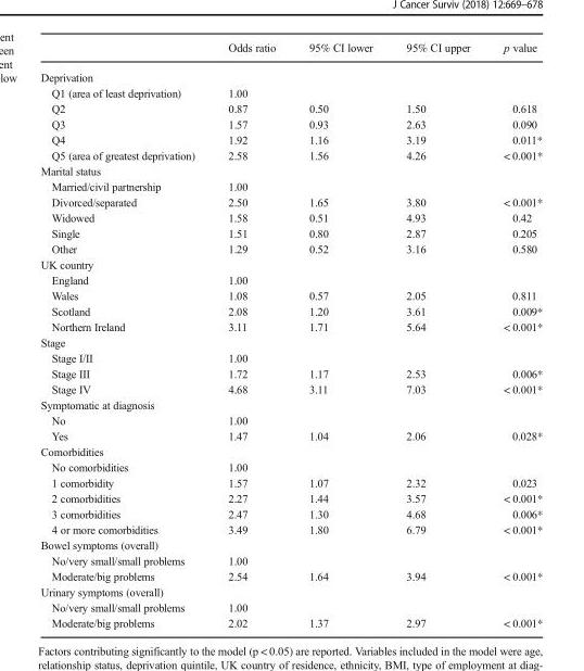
<table><thead><tr><td></td><td>Odds ratio</td><td>95% CI lower</td><td>95% CI upper</td><td>p value</td></tr></thead><tbody><tr><td colspan="5">Deprivation</td></tr><tr><td>Q1 (area of least deprivation)</td><td>1.00</td><td></td><td></td><td></td></tr><tr><td>Q2</td><td>0.87</td><td>0.50</td><td>1.50</td><td>0.618</td></tr><tr><td>Q3</td><td>1.57</td><td>0.93</td><td>2.63</td><td>0.090</td></tr><tr><td>Q4</td><td>1.92</td><td>1.16</td><td>3.19</td><td>0.011*</td></tr><tr><td>Q5 (area of greatest deprivation)</td><td>2.58</td><td>1.56</td><td>4.26</td><td>&lt; 0.001*</td></tr><tr><td colspan="5">Marital status</td></tr><tr><td>Married/civil partnership</td><td>1.00</td><td></td><td></td><td></td></tr><tr><td>Divorced/separated</td><td>2.50</td><td>1.65</td><td>3.80</td><td>&lt; 0.001*</td></tr><tr><td>Widowed</td><td>1.58</td><td>0.51</td><td>4.93</td><td>0.42</td></tr><tr><td>Single</td><td>1.51</td><td>0.80</td><td>2.87</td><td>0.205</td></tr><tr><td>Other</td><td>1.29</td><td>0.52</td><td>3.16</td><td>0.580</td></tr><tr><td colspan="5">UK country</td></tr><tr><td>England</td><td>1.00</td><td></td><td></td><td></td></tr><tr><td>Wales</td><td>1.08</td><td>0.57</td><td>2.05</td><td>0.811</td></tr><tr><td>Scotland</td><td>2.08</td><td>1.20</td><td>3.61</td><td>0.009*</td></tr><tr><td>Northern Ireland</td><td>3.11</td><td>1.71</td><td>5.64</td><td>&lt; 0.001*</td></tr><tr><td colspan="5">Stage</td></tr><tr><td>Stage I/II</td><td>1.00</td><td></td><td></td><td></td></tr><tr><td>Stage III</td><td>1.72</td><td>1.17</td><td>2.53</td><td>0.006*</td></tr><tr><td>Stage IV</td><td>4.68</td><td>3.11</td><td>7.03</td><td>&lt; 0.001*</td></tr><tr><td colspan="5">Symptomatic at diagnosis</td></tr><tr><td>No</td><td>1.00</td><td></td><td></td><td></td></tr><tr><td>Yes</td><td>1.47</td><td>1.04</td><td>2.06</td><td>0.028*</td></tr><tr><td colspan="5">Comorbidities</td></tr><tr><td>No comorbidities</td><td>1.00</td><td></td><td></td><td></td></tr><tr><td>1 comorbidity</td><td>1.57</td><td>1.07</td><td>2.32</td><td>0.023</td></tr><tr><td>2 comorbidities</td><td>2.27</td><td>1.44</td><td>3.57</td><td>&lt; 0.001*</td></tr><tr><td>3 comorbidities</td><td>2.47</td><td>1.30</td><td>4.68</td><td>0.006*</td></tr><tr><td>4 or more comorbidities</td><td>3.49</td><td>1.80</td><td>6.79</td><td>&lt; 0.001*</td></tr><tr><td colspan="5">Bowel symptoms (overall)</td></tr><tr><td>No/very small/small problems</td><td>1.00</td><td></td><td></td><td></td></tr><tr><td>Moderate/big problems</td><td>2.54</td><td>1.64</td><td>3.94</td><td>&lt; 0.001*</td></tr><tr><td colspan="5">Urinary symptoms (overall)</td></tr><tr><td>No/very small/small problems</td><td>1.00</td><td></td><td></td><td></td></tr><tr><td>Moderate/big problems</td><td>2.02</td><td>1.37</td><td>2.97</td><td>&lt; 0.001*</td></tr></tbody></table>